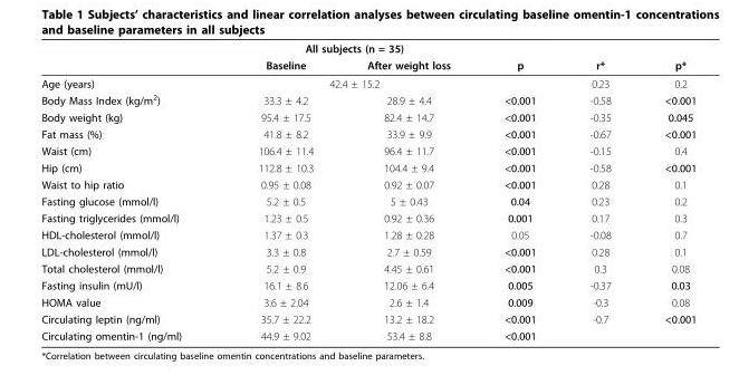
<table><thead><tr><td rowspan="2"></td><td colspan="2">All subjects (n = 35)</td><td rowspan="2">p</td><td rowspan="2">r*</td><td rowspan="2">p*</td></tr><tr><td>Baseline</td><td>After weight loss</td></tr></thead><tbody><tr><td>Age (years)</td><td colspan="2">42.4 ± 15.2</td><td></td><td>0.23</td><td>0.2</td></tr><tr><td>Body Mass Index (kg/m<sup>2</sup>)</td><td>33.3 ± 4.2</td><td>28.9 ± 4.4</td><td>&lt;0.001</td><td>-0.58</td><td>&lt;0.001</td></tr><tr><td>Body weight (kg)</td><td>95.4 ± 17.5</td><td>82.4 ± 14.7</td><td>&lt;0.001</td><td>-0.35</td><td>0.045</td></tr><tr><td>Fat mass (%)</td><td>41.8 ± 8.2</td><td>33.9 ± 9.9</td><td>&lt;0.001</td><td>-0.67</td><td>&lt;0.001</td></tr><tr><td>Waist (cm)</td><td>106.4 ± 11.4</td><td>96.4 ± 11.7</td><td>&lt;0.001</td><td>-0.15</td><td>0.4</td></tr><tr><td>Hip (cm)</td><td>112.8 ± 10.3</td><td>104.4 ± 9.4</td><td>&lt;0.001</td><td>-0.58</td><td>&lt;0.001</td></tr><tr><td>Waist to hip ratio</td><td>0.95 ± 0.08</td><td>0.92 ± 0.07</td><td>&lt;0.001</td><td>0.28</td><td>0.1</td></tr><tr><td>Fasting glucose (mmol/l)</td><td>5.2 ± 0.5</td><td>5 ± 0.43</td><td>0.04</td><td>0.23</td><td>0.2</td></tr><tr><td>Fasting triglycerides (mmol/l)</td><td>1.23 ± 0.5</td><td>0.92 ± 0.36</td><td>0.001</td><td>0.17</td><td>0.3</td></tr><tr><td>HDL-cholesterol (mmol/l)</td><td>1.37 ± 0.3</td><td>1.28 ± 0.28</td><td>0.05</td><td>-0.08</td><td>0.7</td></tr><tr><td>LDL-cholesterol (mmol/l)</td><td>3.3 ± 0.8</td><td>2.7 ± 0.59</td><td>&lt;0.001</td><td>0.28</td><td>0.1</td></tr><tr><td>Total cholesterol (mmol/l)</td><td>5.2 ± 0.9</td><td>4.45 ± 0.61</td><td>&lt;0.001</td><td>0.3</td><td>0.08</td></tr><tr><td>Fasting insulin (mU/l)</td><td>16.1 ± 8.6</td><td>12.06 ± 6.4</td><td>0.005</td><td>-0.37</td><td>0.03</td></tr><tr><td>HOMA value</td><td>3.6 ± 2.04</td><td>2.6 ± 1.4</td><td>0.009</td><td>-0.3</td><td>0.08</td></tr><tr><td>Circulating leptin (ng/ml)</td><td>35.7 ± 22.2</td><td>13.2 ± 18.2</td><td>&lt;0.001</td><td>-0.7</td><td>&lt;0.001</td></tr><tr><td>Circulating omentin-1 (ng/ml)</td><td>44.9 ± 9.02</td><td>53.4 ± 8.8</td><td>&lt;0.001</td><td></td><td></td></tr></tbody></table>